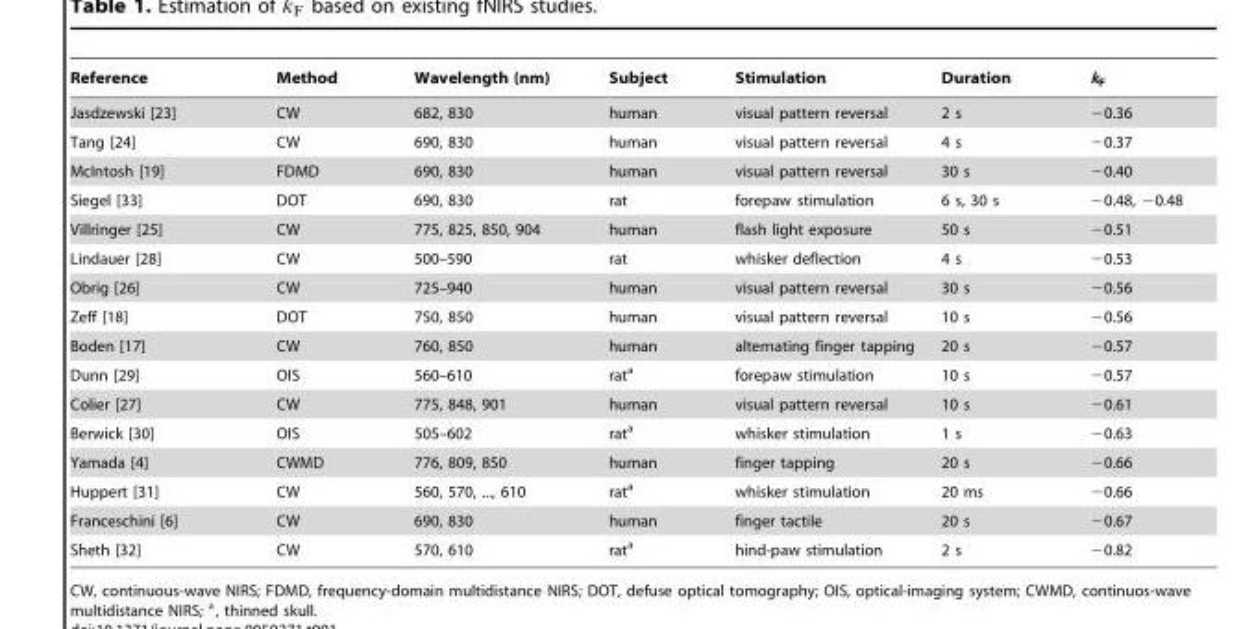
<table><thead><tr><td>Reference</td><td>Method</td><td>Wavelength (nm)</td><td>Subject</td><td>Stimulation</td><td>Duration</td><td>k<sub>F</sub></td></tr></thead><tbody><tr><td>Jasdzewski [23]</td><td>CW</td><td>682, 830</td><td>human</td><td>visual pattern reversal</td><td>2 s</td><td>−0.36</td></tr><tr><td>Tang [24]</td><td>CW</td><td>690, 830</td><td>human</td><td>visual pattern reversal</td><td>4 s</td><td>−0.37</td></tr><tr><td>McIntosh [19]</td><td>FDMD</td><td>690, 830</td><td>human</td><td>visual pattern reversal</td><td>30 s</td><td>−0.40</td></tr><tr><td>Siegel [33]</td><td>DOT</td><td>690, 830</td><td>rat</td><td>forepaw stimulation</td><td>6 s, 30 s</td><td>−0.48, −0.48</td></tr><tr><td>Villringer [25]</td><td>CW</td><td>775, 825, 850, 904</td><td>human</td><td>flash light exposure</td><td>50 s</td><td>−0.51</td></tr><tr><td>Lindauer [28]</td><td>CW</td><td>500–590</td><td>rat</td><td>whisker deflection</td><td>4 s</td><td>−0.53</td></tr><tr><td>Obrig [26]</td><td>CW</td><td>725–940</td><td>human</td><td>visual pattern reversal</td><td>30 s</td><td>−0.56</td></tr><tr><td>Zeff [18]</td><td>DOT</td><td>750, 850</td><td>human</td><td>visual pattern reversal</td><td>10 s</td><td>−0.56</td></tr><tr><td>Boden [17]</td><td>CW</td><td>760, 850</td><td>human</td><td>alternating finger tapping</td><td>20 s</td><td>−0.57</td></tr><tr><td>Dunn [29]</td><td>OIS</td><td>560–610</td><td>rat<sup>a</sup></td><td>forepaw stimulation</td><td>10 s</td><td>−0.57</td></tr><tr><td>Colier [27]</td><td>CW</td><td>775, 848, 901</td><td>human</td><td>visual pattern reversal</td><td>10 s</td><td>−0.61</td></tr><tr><td>Berwick [30]</td><td>OIS</td><td>505–602</td><td>rat<sup>a</sup></td><td>whisker stimulation</td><td>1 s</td><td>−0.63</td></tr><tr><td>Yamada [4]</td><td>CWMD</td><td>776, 809, 850</td><td>human</td><td>finger tapping</td><td>20 s</td><td>−0.66</td></tr><tr><td>Huppert [31]</td><td>CW</td><td>560, 570, ..., 610</td><td>rat<sup>a</sup></td><td>whisker stimulation</td><td>20 ms</td><td>−0.66</td></tr><tr><td>Franceschini [6]</td><td>CW</td><td>690, 830</td><td>human</td><td>finger tactile</td><td>20 s</td><td>−0.67</td></tr><tr><td>Sheth [32]</td><td>CW</td><td>570, 610</td><td>rat<sup>a</sup></td><td>hind-paw stimulation</td><td>2 s</td><td>−0.82</td></tr></tbody></table>